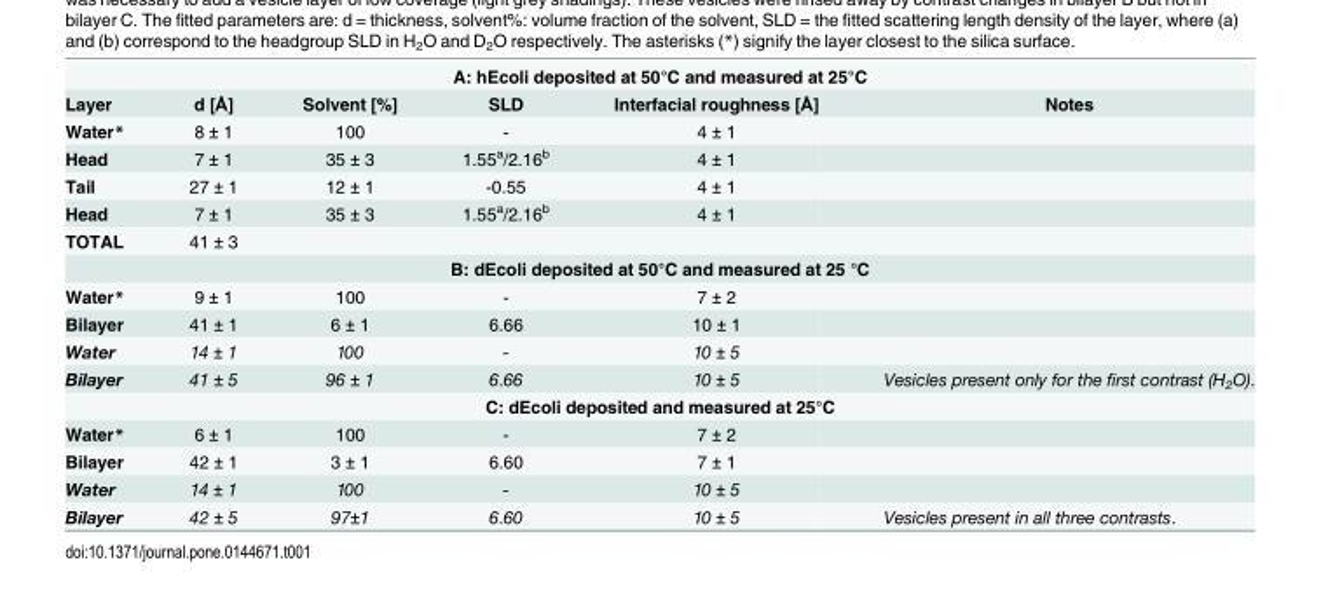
<table><tbody><tr><td colspan="6">A: hEcoli deposited at 50°C and measured at 25°C</td></tr><tr><td>Layer</td><td>d [Å]</td><td>Solvent [%]</td><td>SLD</td><td>Interfacial roughness [Å]</td><td>Notes</td></tr><tr><td>Water*</td><td>8 ± 1</td><td>100</td><td>-</td><td>4 ± 1</td><td></td></tr><tr><td>Head</td><td>7 ± 1</td><td>35 ± 3</td><td>1.55<sup>a</sup>/2.16<sup>b</sup></td><td>4 ± 1</td><td></td></tr><tr><td>Tail</td><td>27 ± 1</td><td>12 ± 1</td><td>-0.55</td><td>4 ± 1</td><td></td></tr><tr><td>Head</td><td>7 ± 1</td><td>35 ± 3</td><td>1.55<sup>a</sup>/2.16<sup>b</sup></td><td>4 ± 1</td><td></td></tr><tr><td>TOTAL</td><td>41 ± 3</td><td></td><td></td><td></td><td></td></tr><tr><td colspan="6">B: dEcoli deposited at 50°C and measured at 25 °C</td></tr><tr><td>Water*</td><td>9 ± 1</td><td>100</td><td>-</td><td>7 ± 2</td><td></td></tr><tr><td>Bilayer</td><td>41 ± 1</td><td>6 ± 1</td><td>6.66</td><td>10 ± 1</td><td></td></tr><tr><td>Water</td><td>14 ± 1</td><td>100</td><td>-</td><td>10 ± 5</td><td></td></tr><tr><td>Bilayer</td><td>41 ± 5</td><td>96 ± 1</td><td>6.66</td><td>10 ± 5</td><td>Vesicles present only for the first contrast (H<sub>2</sub>O).</td></tr><tr><td colspan="6">C: dEcoli deposited and measured at 25°C</td></tr><tr><td>Water*</td><td>6 ± 1</td><td>100</td><td>-</td><td>7 ± 2</td><td></td></tr><tr><td>Bilayer</td><td>42 ± 1</td><td>3 ± 1</td><td>6.60</td><td>7 ± 1</td><td></td></tr><tr><td>Water</td><td>14 ± 1</td><td>100</td><td>-</td><td>10 ± 5</td><td></td></tr><tr><td>Bilayer</td><td>42 ± 5</td><td>97±1</td><td>6.60</td><td>10 ± 5</td><td>Vesicles present in all three contrasts.</td></tr></tbody></table>